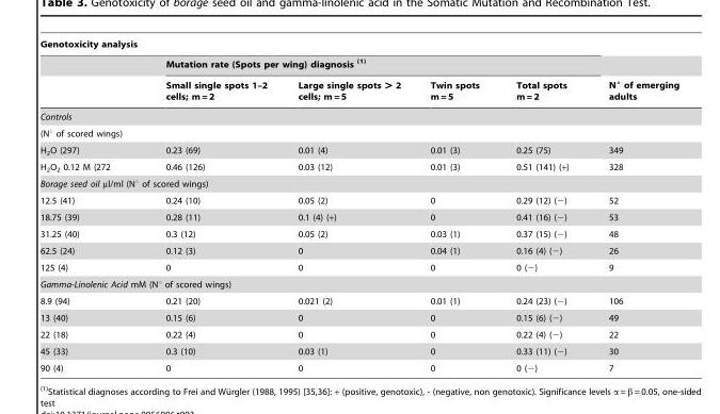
<table><thead><tr><td colspan="5">Genotoxicity analysis</td><td rowspan="3">N° of emerging adults</td></tr><tr><td rowspan="2"></td><td colspan="4">Mutation rate (Spots per wing) diagnosis (1)</td></tr><tr><td>Small single spots 1–2 cells; m = 2</td><td>Large single spots &gt; 2 cells; m = 5</td><td>Twin spots m = 5</td><td>Total spots m = 2</td></tr></thead><tbody><tr><td colspan="6">Controls</td></tr><tr><td colspan="6">(N° of scored wings)</td></tr><tr><td>H<sub>2</sub>O (297)</td><td>0.23 (69)</td><td>0.01 (4)</td><td>0.01 (3)</td><td>0.25 (75)</td><td>349</td></tr><tr><td>H<sub>2</sub>O<sub>2</sub> 0.12 M (272</td><td>0.46 (126)</td><td>0.03 (12)</td><td>0.01 (3)</td><td>0.51 (141) (+)</td><td>328</td></tr><tr><td colspan="6">Borage seed oil µl/ml (N° of scored wings)</td></tr><tr><td>12.5 (41)</td><td>0.24 (10)</td><td>0.05 (2)</td><td>0</td><td>0.29 (12) (−)</td><td>52</td></tr><tr><td>18.75 (39)</td><td>0.28 (11)</td><td>0.1 (4) (+)</td><td>0</td><td>0.41 (16) (−)</td><td>53</td></tr><tr><td>31.25 (40)</td><td>0.3 (12)</td><td>0.05 (2)</td><td>0.03 (1)</td><td>0.37 (15) (−)</td><td>48</td></tr><tr><td>62.5 (24)</td><td>0.12 (3)</td><td>0</td><td>0.04 (1)</td><td>0.16 (4) (−)</td><td>26</td></tr><tr><td>125 (4)</td><td>0</td><td>0</td><td>0</td><td>0 (−)</td><td>9</td></tr><tr><td colspan="6">Gamma-Linolenic Acid mM (N° of scored wings)</td></tr><tr><td>8.9 (94)</td><td>0.21 (20)</td><td>0.021 (2)</td><td>0.01 (1)</td><td>0.24 (23) (−)</td><td>106</td></tr><tr><td>13 (40)</td><td>0.15 (6)</td><td>0</td><td>0</td><td>0.15 (6) (−)</td><td>49</td></tr><tr><td>22 (18)</td><td>0.22 (4)</td><td>0</td><td>0</td><td>0.22 (4) (−)</td><td>22</td></tr><tr><td>45 (33)</td><td>0.3 (10)</td><td>0.03 (1)</td><td>0</td><td>0.33 (11) (−)</td><td>30</td></tr><tr><td>90 (4)</td><td>0</td><td>0</td><td>0</td><td>0 (−)</td><td>7</td></tr></tbody></table>